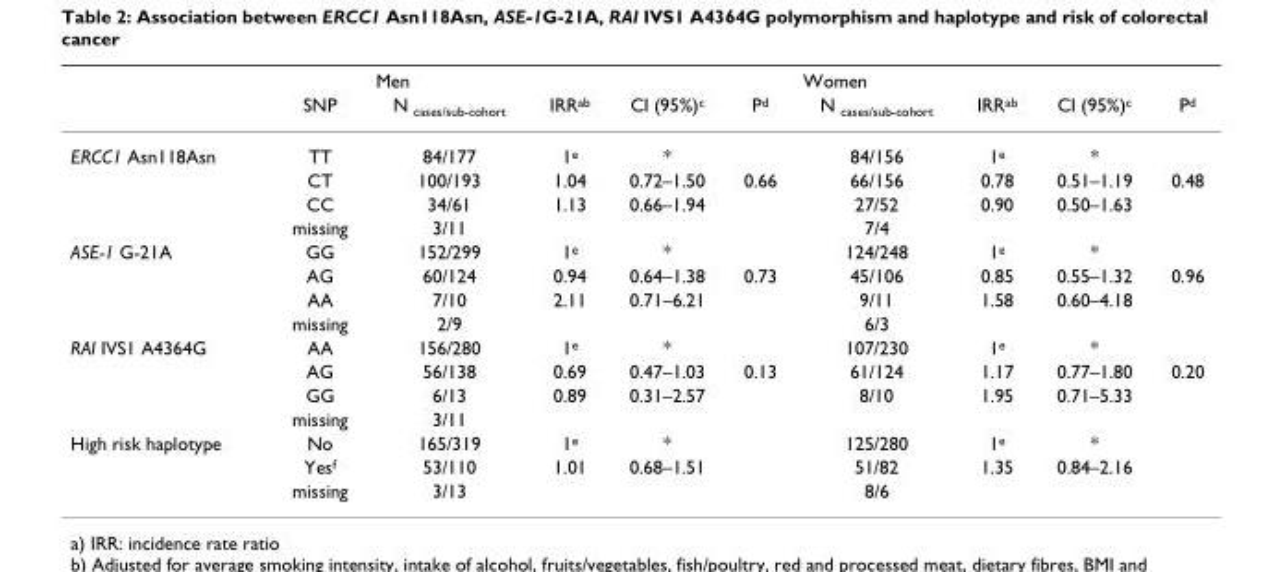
<table><thead><tr><td rowspan="2"></td><td rowspan="2">SNP</td><td colspan="4">Men</td><td colspan="4">Women</td></tr><tr><td>N <sub>cases/sub-cohort</sub></td><td>IRR<sup>ab</sup></td><td>CI (95%)<sup>c</sup></td><td>P<sup>d</sup></td><td>N <sub>cases/sub-cohort</sub></td><td>IRR<sup>ab</sup></td><td>CI (95%)<sup>c</sup></td><td>P<sup>d</sup></td></tr></thead><tbody><tr><td rowspan="4">ERCC1 Asn118Asn</td><td>TT</td><td>84/177</td><td>1<sup>e</sup></td><td>*</td><td></td><td>84/156</td><td>1<sup>e</sup></td><td>*</td><td></td></tr><tr><td>CT</td><td>100/193</td><td>1.04</td><td>0.72–1.50</td><td>0.66</td><td>66/156</td><td>0.78</td><td>0.51–1.19</td><td>0.48</td></tr><tr><td>CC</td><td>34/61</td><td>1.13</td><td>0.66–1.94</td><td></td><td>27/52</td><td>0.90</td><td>0.50–1.63</td><td></td></tr><tr><td>missing</td><td>3/11</td><td></td><td></td><td></td><td>7/4</td><td></td><td></td><td></td></tr><tr><td rowspan="4">ASE-1 G-21A</td><td>GG</td><td>152/299</td><td>1<sup>e</sup></td><td>*</td><td></td><td>124/248</td><td>1<sup>e</sup></td><td>*</td><td></td></tr><tr><td>AG</td><td>60/124</td><td>0.94</td><td>0.64–1.38</td><td>0.73</td><td>45/106</td><td>0.85</td><td>0.55–1.32</td><td>0.96</td></tr><tr><td>AA</td><td>7/10</td><td>2.11</td><td>0.71–6.21</td><td></td><td>9/11</td><td>1.58</td><td>0.60–4.18</td><td></td></tr><tr><td>missing</td><td>2/9</td><td></td><td></td><td></td><td>6/3</td><td></td><td></td><td></td></tr><tr><td rowspan="4">RAI IVS1 A4364G</td><td>AA</td><td>156/280</td><td>1<sup>e</sup></td><td>*</td><td></td><td>107/230</td><td>1<sup>e</sup></td><td>*</td><td></td></tr><tr><td>AG</td><td>56/138</td><td>0.69</td><td>0.47–1.03</td><td>0.13</td><td>61/124</td><td>1.17</td><td>0.77–1.80</td><td>0.20</td></tr><tr><td>GG</td><td>6/13</td><td>0.89</td><td>0.31–2.57</td><td></td><td>8/10</td><td>1.95</td><td>0.71–5.33</td><td></td></tr><tr><td>missing</td><td>3/11</td><td></td><td></td><td></td><td></td><td></td><td></td><td></td></tr><tr><td rowspan="3">High risk haplotype</td><td>No</td><td>165/319</td><td>1<sup>e</sup></td><td>*</td><td></td><td>125/280</td><td>1<sup>e</sup></td><td>*</td><td></td></tr><tr><td>Yes<sup>f</sup></td><td>53/110</td><td>1.01</td><td>0.68–1.51</td><td></td><td>51/82</td><td>1.35</td><td>0.84–2.16</td><td></td></tr><tr><td>missing</td><td>3/13</td><td></td><td></td><td></td><td>8/6</td><td></td><td></td><td></td></tr></tbody></table>